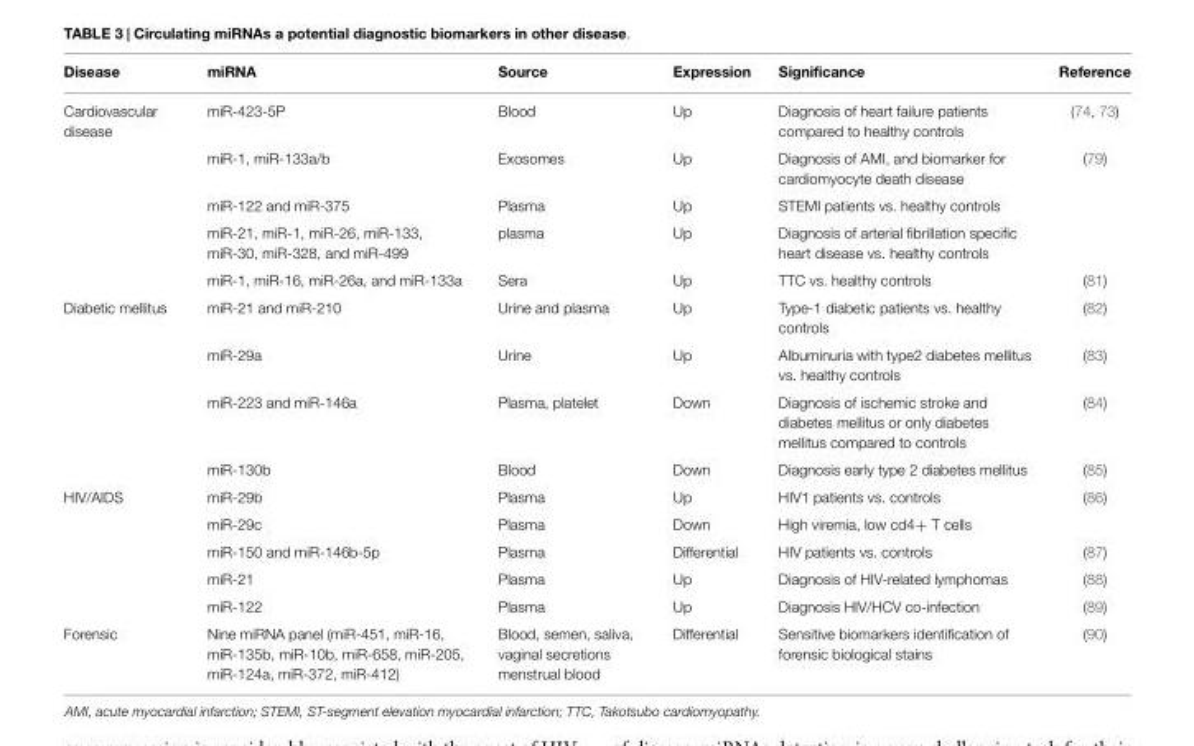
<table><thead><tr><td>Disease</td><td>miRNA</td><td>Source</td><td>Expression</td><td>Significance</td><td>Reference</td></tr></thead><tbody><tr><td rowspan="5">Cardiovascular disease</td><td>miR-423-5P</td><td>Blood</td><td>Up</td><td>Diagnosis of heart failure patients compared to healthy controls</td><td>(74, 73)</td></tr><tr><td>miR-1, miR-133a/b</td><td>Exosomes</td><td>Up</td><td>Diagnosis of AMI, and biomarker for cardiomyocyte death disease</td><td>(79)</td></tr><tr><td>miR-122 and miR-375</td><td>Plasma</td><td>Up</td><td>STEMI patients vs. healthy controls</td><td></td></tr><tr><td>miR-21, miR-1, miR-26, miR-133, miR-30, miR-328, and miR-499</td><td>plasma</td><td>Up</td><td>Diagnosis of arterial fibrillation specific heart disease vs. healthy controls</td><td></td></tr><tr><td>miR-1, miR-16, miR-26a, and miR-133a</td><td>Sera</td><td>Up</td><td>TTC vs. healthy controls</td><td>(81)</td></tr><tr><td rowspan="4">Diabetic mellitus</td><td>miR-21 and miR-210</td><td>Urine and plasma</td><td>Up</td><td>Type-1 diabetic patients vs. healthy controls</td><td>(82)</td></tr><tr><td>miR-29a</td><td>Urine</td><td>Up</td><td>Albuminuria with type2 diabetes mellitus vs. healthy controls</td><td>(83)</td></tr><tr><td>miR-223 and miR-146a</td><td>Plasma, platelet</td><td>Down</td><td>Diagnosis of ischemic stroke and diabetes mellitus or only diabetes mellitus compared to controls</td><td>(84)</td></tr><tr><td>miR-130b</td><td>Blood</td><td>Down</td><td>Diagnosis early type 2 diabetes mellitus</td><td>(85)</td></tr><tr><td rowspan="5">HIV/AIDS</td><td>miR-29b</td><td>Plasma</td><td>Up</td><td>HIV1 patients vs. controls</td><td>(86)</td></tr><tr><td>miR-29c</td><td>Plasma</td><td>Down</td><td>High viremia, low cd4+ T cells</td><td></td></tr><tr><td>miR-150 and miR-146b-5p</td><td>Plasma</td><td>Differential</td><td>HIV patients vs. controls</td><td>(87)</td></tr><tr><td>miR-21</td><td>Plasma</td><td>Up</td><td>Diagnosis of HIV-related lymphomas</td><td>(88)</td></tr><tr><td>miR-122</td><td>Plasma</td><td>Up</td><td>Diagnosis HIV/HCV co-infection</td><td>(89)</td></tr><tr><td>Forensic</td><td>Nine miRNA panel (miR-451, miR-16, miR-135b, miR-10b, miR-658, miR-205, miR-124a, miR-372, miR-412)</td><td>Blood, semen, saliva, vaginal secretions menstrual blood</td><td>Differential</td><td>Sensitive biomarkers identification of forensic biological stains</td><td>(90)</td></tr></tbody></table>